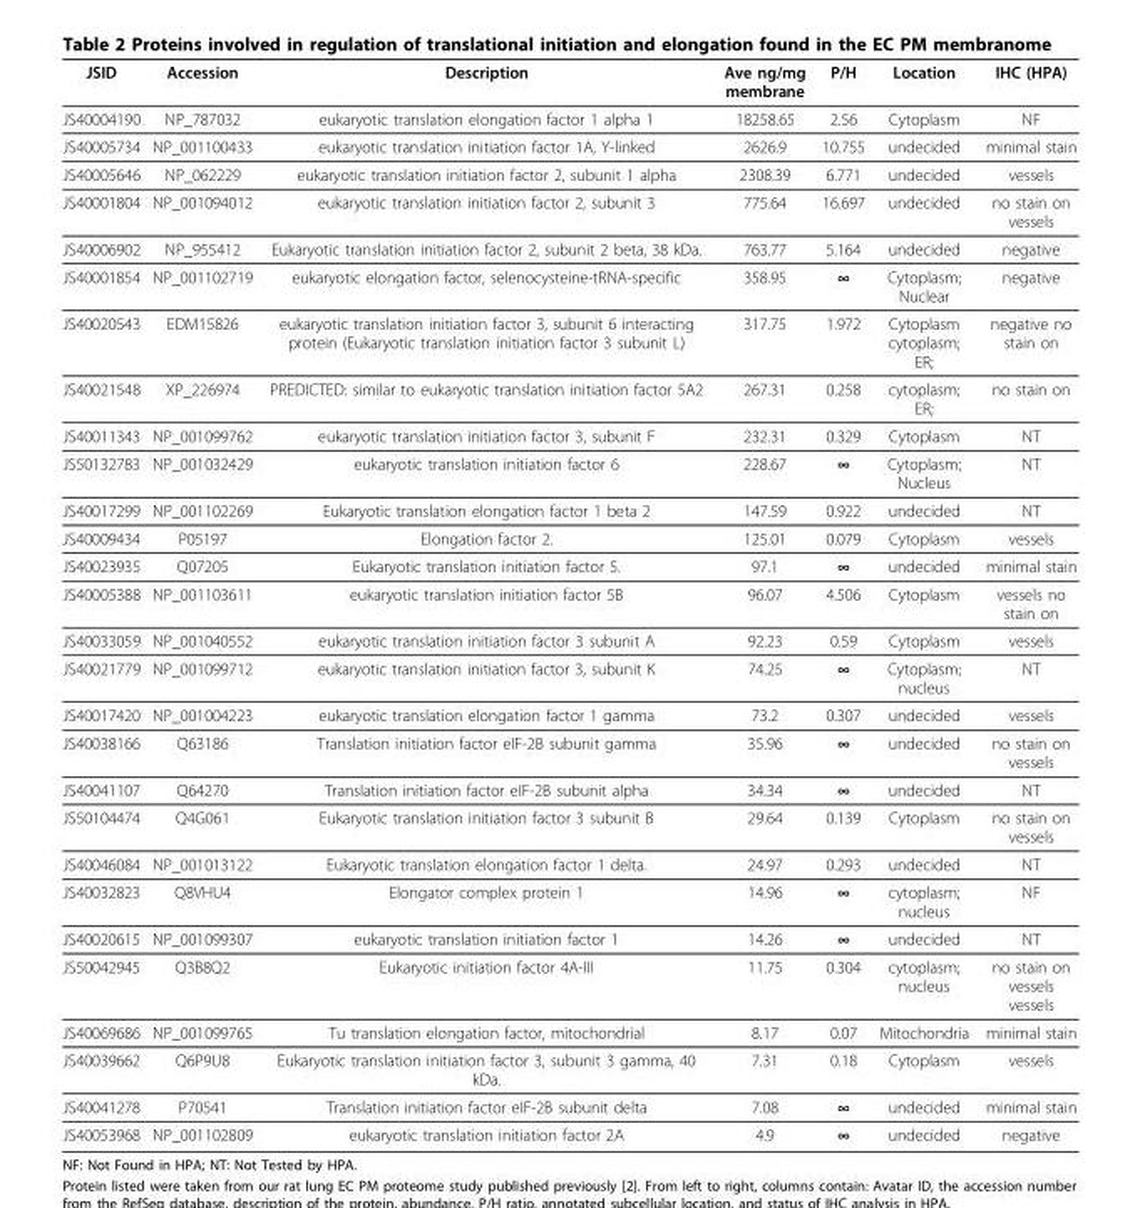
<table><thead><tr><td>JSID</td><td>Accession</td><td>Description</td><td>Ave ng/mg membrane</td><td>P/H</td><td>Location</td><td>IHC (HPA)</td></tr></thead><tbody><tr><td>JS40004190</td><td>NP_787032</td><td>eukaryotic translation elongation factor 1 alpha 1</td><td>18258.65</td><td>2.56</td><td>Cytoplasm</td><td>NF</td></tr><tr><td>JS40005734</td><td>NP_001100433</td><td>eukaryotic translation initiation factor 1A, Y-linked</td><td>2626.9</td><td>10.755</td><td>undecided</td><td>minimal stain</td></tr><tr><td>JS40005646</td><td>NP_062229</td><td>eukaryotic translation initiation factor 2, subunit 1 alpha</td><td>2308.39</td><td>6.771</td><td>undecided</td><td>vessels</td></tr><tr><td>JS40001804</td><td>NP_001094012</td><td>eukaryotic translation initiation factor 2, subunit 3</td><td>775.64</td><td>16.697</td><td>undecided</td><td>no stain on vessels</td></tr><tr><td>JS40006902</td><td>NP_955412</td><td>Eukaryotic translation initiation factor 2, subunit 2 beta, 38 kDa.</td><td>763.77</td><td>5.164</td><td>undecided</td><td>negative</td></tr><tr><td>JS40001854</td><td>NP_001102719</td><td>eukaryotic elongation factor, selenocysteine-tRNA-specific</td><td>358.95</td><td>∞</td><td>Cytoplasm; Nuclear</td><td>negative</td></tr><tr><td>JS40020543</td><td>EDM15826</td><td>eukaryotic translation initiation factor 3, subunit 6 interacting protein (Eukaryotic translation initiation factor 3 subunit L)</td><td>317.75</td><td>1.972</td><td>Cytoplasm cytoplasm; ER;</td><td>negative no stain on</td></tr><tr><td>JS40021548</td><td>XP_226974</td><td>PREDICTED: similar to eukaryotic translation initiation factor 5A2</td><td>267.31</td><td>0.258</td><td>cytoplasm; ER;</td><td>no stain on</td></tr><tr><td>JS40011343</td><td>NP_001099762</td><td>eukaryotic translation initiation factor 3, subunit F</td><td>232.31</td><td>0.329</td><td>Cytoplasm</td><td>NT</td></tr><tr><td>JS50132783</td><td>NP_001032429</td><td>eukaryotic translation initiation factor 6</td><td>228.67</td><td>∞</td><td>Cytoplasm; Nucleus</td><td>NT</td></tr><tr><td>JS40017299</td><td>NP_001102269</td><td>Eukaryotic translation elongation factor 1 beta 2</td><td>147.59</td><td>0.922</td><td>undecided</td><td>NT</td></tr><tr><td>JS40009434</td><td>P05197</td><td>Elongation factor 2.</td><td>125.01</td><td>0.079</td><td>Cytoplasm</td><td>vessels</td></tr><tr><td>JS40023935</td><td>Q07205</td><td>Eukaryotic translation initiation factor 5.</td><td>97.1</td><td>∞</td><td>undecided</td><td>minimal stain</td></tr><tr><td>JS40005388</td><td>NP_001103611</td><td>eukaryotic translation initiation factor 5B</td><td>96.07</td><td>4.506</td><td>Cytoplasm</td><td>vessels no stain on</td></tr><tr><td>JS40033059</td><td>NP_001040552</td><td>eukaryotic translation initiation factor 3 subunit A</td><td>92.23</td><td>0.59</td><td>Cytoplasm</td><td>vessels</td></tr><tr><td>JS40021779</td><td>NP_001099712</td><td>eukaryotic translation initiation factor 3, subunit K</td><td>74.25</td><td>∞</td><td>Cytoplasm; nucleus</td><td>NT</td></tr><tr><td>JS40017420</td><td>NP_001004223</td><td>eukaryotic translation elongation factor 1 gamma</td><td>73.2</td><td>0.307</td><td>undecided</td><td>vessels</td></tr><tr><td>JS40038166</td><td>Q63186</td><td>Translation initiation factor eIF-2B subunit gamma</td><td>35.96</td><td>∞</td><td>undecided</td><td>no stain on vessels</td></tr><tr><td>JS40041107</td><td>Q64270</td><td>Translation initiation factor eIF-2B subunit alpha</td><td>34.34</td><td>∞</td><td>undecided</td><td>NT</td></tr><tr><td>JS50104474</td><td>Q4G061</td><td>Eukaryotic translation initiation factor 3 subunit B</td><td>29.64</td><td>0.139</td><td>Cytoplasm</td><td>no stain on vessels</td></tr><tr><td>JS40046084</td><td>NP_001013122</td><td>Eukaryotic translation elongation factor 1 delta.</td><td>24.97</td><td>0.293</td><td>undecided</td><td>NT</td></tr><tr><td>JS40032823</td><td>Q8VHU4</td><td>Elongator complex protein 1</td><td>14.96</td><td>∞</td><td>cytoplasm; nucleus</td><td>NF</td></tr><tr><td>JS40020615</td><td>NP_001099307</td><td>eukaryotic translation initiation factor 1</td><td>14.26</td><td>∞</td><td>undecided</td><td>NT</td></tr><tr><td>JS50042945</td><td>Q3B8Q2</td><td>Eukaryotic initiation factor 4A-III</td><td>11.75</td><td>0.304</td><td>cytoplasm; nucleus</td><td>no stain on vessels vessels</td></tr><tr><td>JS40069686</td><td>NP_001099765</td><td>Tu translation elongation factor, mitochondrial</td><td>8.17</td><td>0.07</td><td>Mitochondria</td><td>minimal stain</td></tr><tr><td>JS40039662</td><td>Q6P9U8</td><td>Eukaryotic translation initiation factor 3, subunit 3 gamma, 40 kDa.</td><td>7.31</td><td>0.18</td><td>Cytoplasm</td><td>vessels</td></tr><tr><td>JS40041278</td><td>P70541</td><td>Translation initiation factor eIF-2B subunit delta</td><td>7.08</td><td>∞</td><td>undecided</td><td>minimal stain</td></tr><tr><td>JS40053968</td><td>NP_001102809</td><td>eukaryotic translation initiation factor 2A</td><td>4.9</td><td>∞</td><td>undecided</td><td>negative</td></tr></tbody></table>